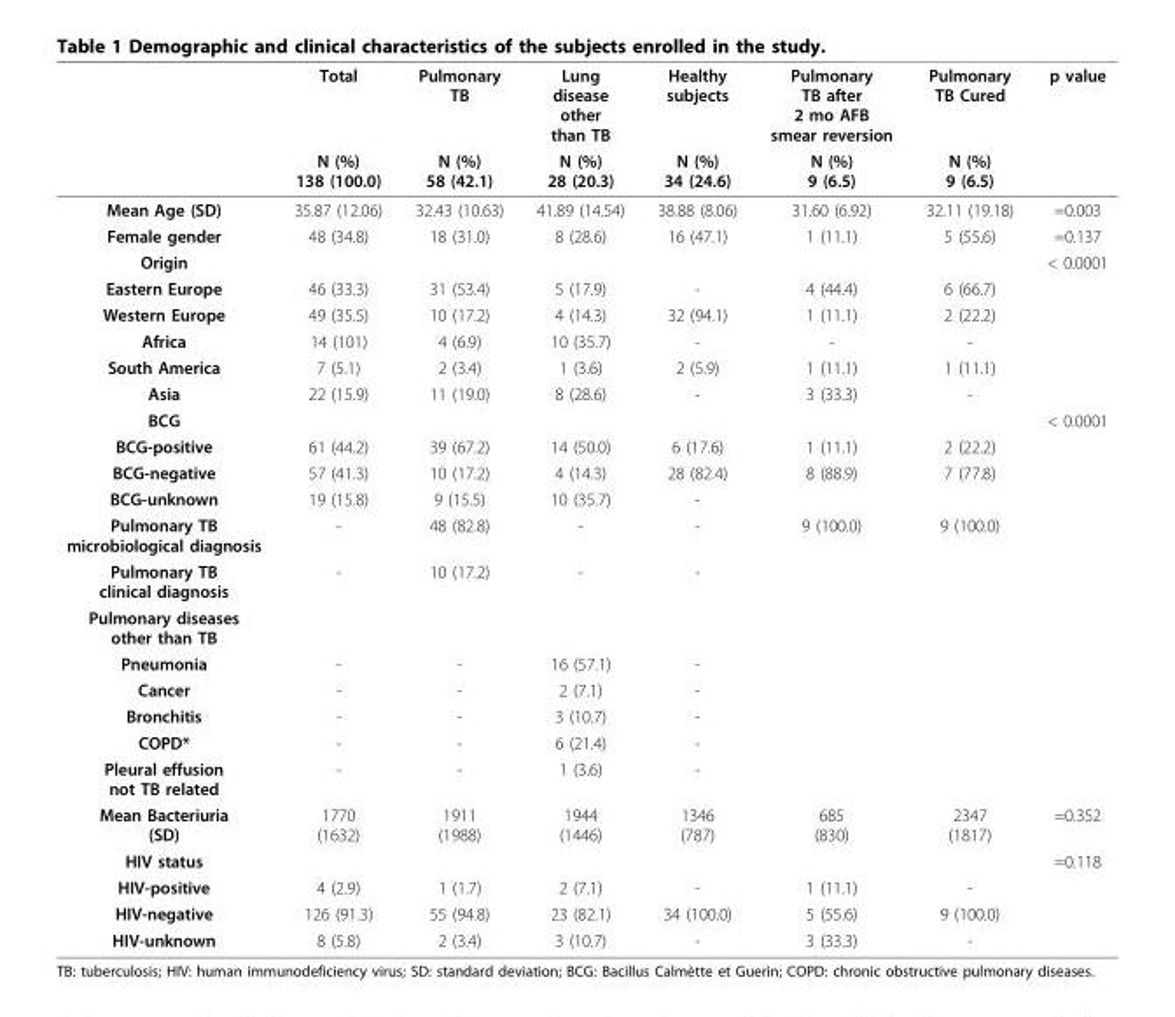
<table><thead><tr><td rowspan="2"></td><td rowspan="2">Total N (%) 138 (100.0)</td><td rowspan="2">Pulmonary TB N (%) 58 (42.1)</td><td rowspan="2">Lung disease other than TB N (%) 28 (20.3)</td><td rowspan="2">Healthy subjects N (%) 34 (24.6)</td><td rowspan="2">Pulmonary TB after 2 mo AFB smear reversion N (%) 9 (6.5)</td><td rowspan="2">Pulmonary TB Cured N (%) 9 (6.5)</td><td rowspan="2">p value</td></tr><tr></tr></thead><tbody><tr><td>Mean Age (SD)</td><td>35.87 (12.06)</td><td>32.43 (10.63)</td><td>41.89 (14.54)</td><td>38.88 (8.06)</td><td>31.60 (6.92)</td><td>32.11 (19.18)</td><td>=0.003</td></tr><tr><td>Female gender</td><td>48 (34.8)</td><td>18 (31.0)</td><td>8 (28.6)</td><td>16 (47.1)</td><td>1 (11.1)</td><td>5 (55.6)</td><td>=0.137</td></tr><tr><td>Origin</td><td></td><td></td><td></td><td></td><td></td><td></td><td>&lt; 0.0001</td></tr><tr><td>Eastern Europe</td><td>46 (33.3)</td><td>31 (53.4)</td><td>5 (17.9)</td><td>-</td><td>4 (44.4)</td><td>6 (66.7)</td><td></td></tr><tr><td>Western Europe</td><td>49 (35.5)</td><td>10 (17.2)</td><td>4 (14.3)</td><td>32 (94.1)</td><td>1 (11.1)</td><td>2 (22.2)</td><td></td></tr><tr><td>Africa</td><td>14 (101)</td><td>4 (6.9)</td><td>10 (35.7)</td><td>-</td><td>-</td><td>-</td><td></td></tr><tr><td>South America</td><td>7 (5.1)</td><td>2 (3.4)</td><td>1 (3.6)</td><td>2 (5.9)</td><td>1 (11.1)</td><td>1 (11.1)</td><td></td></tr><tr><td>Asia</td><td>22 (15.9)</td><td>11 (19.0)</td><td>8 (28.6)</td><td>-</td><td>3 (33.3)</td><td>-</td><td></td></tr><tr><td>BCG</td><td></td><td></td><td></td><td></td><td></td><td></td><td>&lt; 0.0001</td></tr><tr><td>BCG-positive</td><td>61 (44.2)</td><td>39 (67.2)</td><td>14 (50.0)</td><td>6 (17.6)</td><td>1 (11.1)</td><td>2 (22.2)</td><td></td></tr><tr><td>BCG-negative</td><td>57 (41.3)</td><td>10 (17.2)</td><td>4 (14.3)</td><td>28 (82.4)</td><td>8 (88.9)</td><td>7 (77.8)</td><td></td></tr><tr><td>BCG-unknown</td><td>19 (15.8)</td><td>9 (15.5)</td><td>10 (35.7)</td><td>-</td><td></td><td></td><td></td></tr><tr><td>Pulmonary TB microbiological diagnosis</td><td>-</td><td>48 (82.8)</td><td>-</td><td>-</td><td>9 (100.0)</td><td>9 (100.0)</td><td></td></tr><tr><td>Pulmonary TB clinical diagnosis</td><td>-</td><td>10 (17.2)</td><td>-</td><td>-</td><td></td><td></td><td></td></tr><tr><td colspan="8">Pulmonary diseases other than TB</td></tr><tr><td>Pneumonia</td><td>-</td><td>-</td><td>16 (57.1)</td><td>-</td><td></td><td></td><td></td></tr><tr><td>Cancer</td><td>-</td><td>-</td><td>2 (7.1)</td><td>-</td><td></td><td></td><td></td></tr><tr><td>Bronchitis</td><td>-</td><td>-</td><td>3 (10.7)</td><td>-</td><td></td><td></td><td></td></tr><tr><td>COPD*</td><td>-</td><td>-</td><td>6 (21.4)</td><td>-</td><td></td><td></td><td></td></tr><tr><td>Pleural effusion not TB related</td><td>-</td><td>-</td><td>1 (3.6)</td><td>-</td><td></td><td></td><td></td></tr><tr><td>Mean Bacteriuria (SD)</td><td>1770 (1632)</td><td>1911 (1988)</td><td>1944 (1446)</td><td>1346 (787)</td><td>685 (830)</td><td>2347 (1817)</td><td>=0.352</td></tr><tr><td>HIV status</td><td></td><td></td><td></td><td></td><td></td><td></td><td>=0.118</td></tr><tr><td>HIV-positive</td><td>4 (2.9)</td><td>1 (1.7)</td><td>2 (7.1)</td><td>-</td><td>1 (11.1)</td><td>-</td><td></td></tr><tr><td>HIV-negative</td><td>126 (91.3)</td><td>55 (94.8)</td><td>23 (82.1)</td><td>34 (100.0)</td><td>5 (55.6)</td><td>9 (100.0)</td><td></td></tr><tr><td>HIV-unknown</td><td>8 (5.8)</td><td>2 (3.4)</td><td>3 (10.7)</td><td>-</td><td>3 (33.3)</td><td>-</td><td></td></tr></tbody></table>